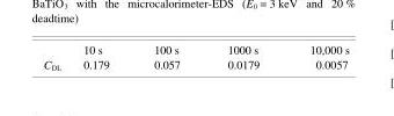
<table><thead><tr><td></td><td>10 s</td><td>100 s</td><td>1000 s</td><td>10,000 s</td></tr></thead><tbody><tr><td>C<sub>DL</sub></td><td>0.179</td><td>0.057</td><td>0.0179</td><td>0.0057</td></tr></tbody></table>